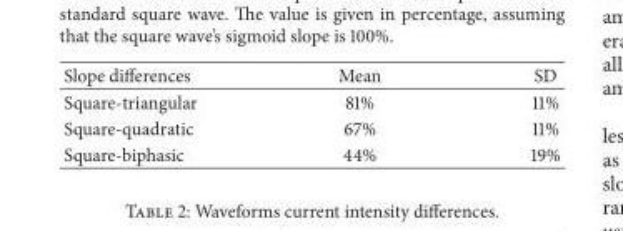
<table><thead><tr><td>Slope differences</td><td>Mean</td><td>SD</td></tr></thead><tbody><tr><td>Square-triangular</td><td>81%</td><td>11%</td></tr><tr><td>Square-quadratic</td><td>67%</td><td>11%</td></tr><tr><td>Square-biphasic</td><td>44%</td><td>19%</td></tr></tbody></table>